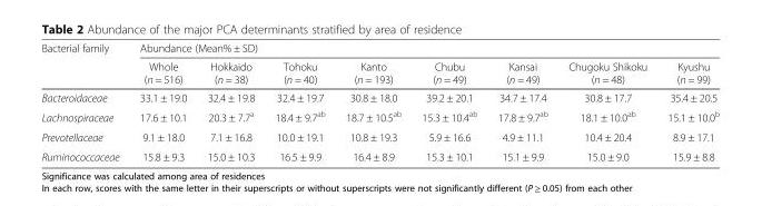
<table><thead><tr><td rowspan="2">Bacterial family</td><td colspan="8">Abundance (Mean% ± SD)</td></tr><tr><td>Whole (n = 516)</td><td>Hokkaido (n = 38)</td><td>Tohoku (n = 40)</td><td>Kanto (n = 193)</td><td>Chubu (n = 49)</td><td>Kansai (n = 49)</td><td>Chugoku Shikoku (n = 48)</td><td>Kyushu (n = 99)</td></tr></thead><tbody><tr><td>Bacteroidaceae</td><td>33.1 ± 19.0</td><td>32.4 ± 19.8</td><td>32.4 ± 19.7</td><td>30.8 ± 18.0</td><td>39.2 ± 20.1</td><td>34.7 ± 17.4</td><td>30.8 ± 17.7</td><td>35.4 ± 20.5</td></tr><tr><td>Lachnospiraceae</td><td>17.6 ± 10.1</td><td>20.3 ± 7.7<sup>a</sup></td><td>18.4 ± 9.7<sup>ab</sup></td><td>18.7 ± 10.5<sup>ab</sup></td><td>15.3 ± 10.4<sup>ab</sup></td><td>17.8 ± 9.7<sup>ab</sup></td><td>18.1 ± 10.0<sup>ab</sup></td><td>15.1 ± 10.0<sup>b</sup></td></tr><tr><td>Prevotellaceae</td><td>9.1 ± 18.0</td><td>7.1 ± 16.8</td><td>10.0 ± 19.1</td><td>10.8 ± 19.3</td><td>5.9 ± 16.6</td><td>4.9 ± 11.1</td><td>10.4 ± 20.4</td><td>8.9 ± 17.1</td></tr><tr><td>Ruminococcaceae</td><td>15.8 ± 9.3</td><td>15.0 ± 10.3</td><td>16.5 ± 9.9</td><td>16.4 ± 8.9</td><td>15.3 ± 10.1</td><td>15.1 ± 9.9</td><td>15.0 ± 9.0</td><td>15.9 ± 8.8</td></tr></tbody></table>